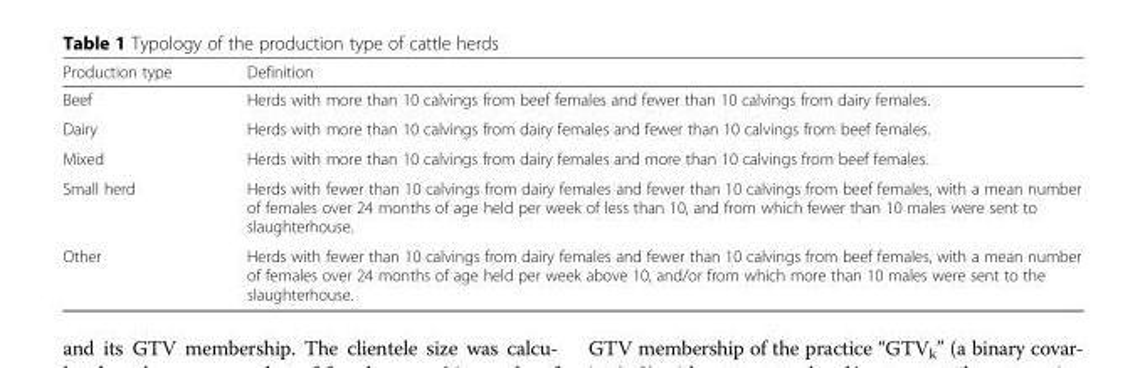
<table><thead><tr><td>Production type</td><td>Definition</td></tr></thead><tbody><tr><td>Beef</td><td>Herds with more than 10 calvings from beef females and fewer than 10 calvings from dairy females.</td></tr><tr><td>Dairy</td><td>Herds with more than 10 calvings from dairy females and fewer than 10 calvings from beef females.</td></tr><tr><td>Mixed</td><td>Herds with more than 10 calvings from dairy females and more than 10 calvings from beef females.</td></tr><tr><td>Small herd</td><td>Herds with fewer than 10 calvings from dairy females and fewer than 10 calvings from beef females, with a mean number of females over 24 months of age held per week of less than 10, and from which fewer than 10 males were sent to slaughterhouse.</td></tr><tr><td>Other</td><td>Herds with fewer than 10 calvings from dairy females and fewer than 10 calvings from beef females, with a mean number of females over 24 months of age held per week above 10, and/or from which more than 10 males were sent to the slaughterhouse.</td></tr></tbody></table>